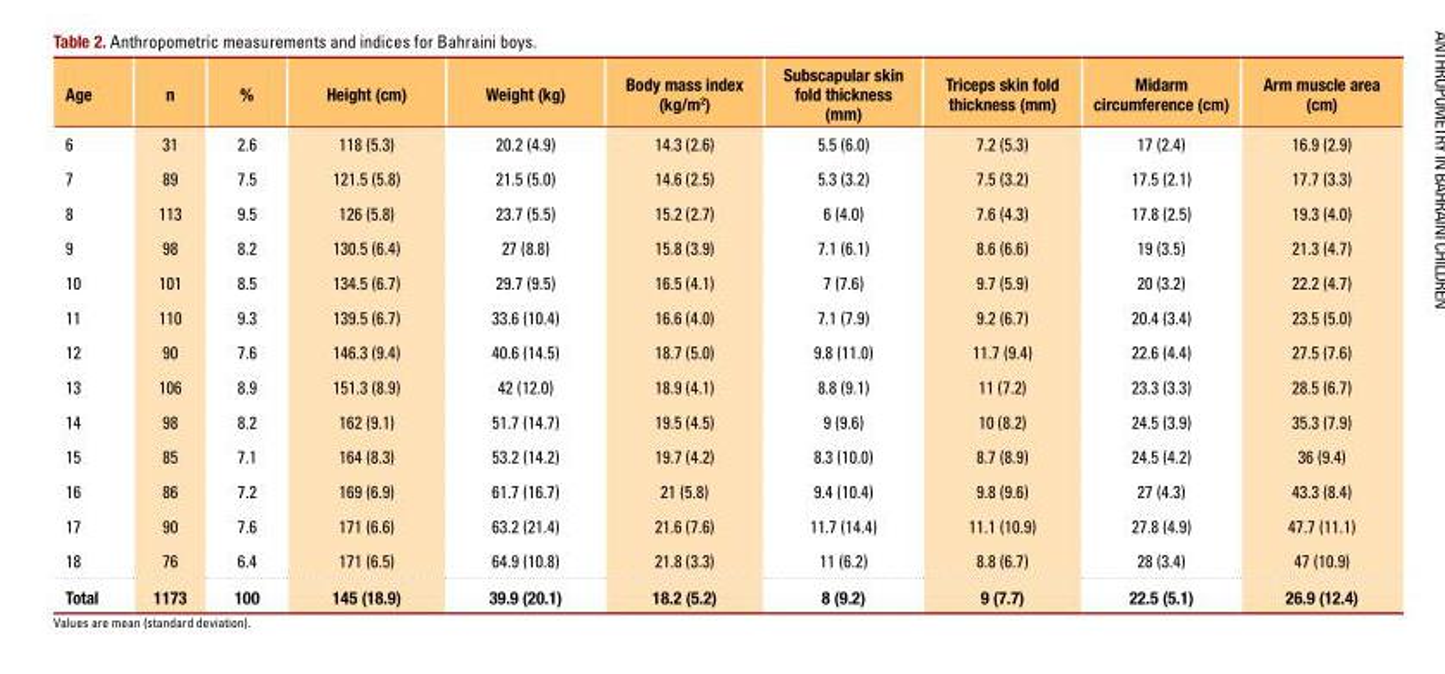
<table><thead><tr><td>Age</td><td>n</td><td>%</td><td>Height (cm)</td><td>Weight (kg)</td><td>Body mass index (kg/m<sup>2</sup>)</td><td>Subscapular skin fold thickness (mm)</td><td>Triceps skin fold thickness (mm)</td><td>Midarm circumference (cm)</td><td>Arm muscle area (cm)</td></tr></thead><tbody><tr><td>6</td><td>31</td><td>2.6</td><td>118 (5.3)</td><td>20.2 (4.9)</td><td>14.3 (2.6)</td><td>5.5 (6.0)</td><td>7.2 (5.3)</td><td>17 (2.4)</td><td>16.9 (2.9)</td></tr><tr><td>7</td><td>89</td><td>7.5</td><td>121.5 (5.8)</td><td>21.5 (5.0)</td><td>14.6 (2.5)</td><td>5.3 (3.2)</td><td>7.5 (3.2)</td><td>17.5 (2.1)</td><td>17.7 (3.3)</td></tr><tr><td>8</td><td>113</td><td>9.5</td><td>126 (5.8)</td><td>23.7 (5.5)</td><td>15.2 (2.7)</td><td>6 (4.0)</td><td>7.6 (4.3)</td><td>17.8 (2.5)</td><td>19.3 (4.0)</td></tr><tr><td>9</td><td>98</td><td>8.2</td><td>130.5 (6.4)</td><td>27 (8.8)</td><td>15.8 (3.9)</td><td>7.1 (6.1)</td><td>8.6 (6.6)</td><td>19 (3.5)</td><td>21.3 (4.7)</td></tr><tr><td>10</td><td>101</td><td>8.5</td><td>134.5 (6.7)</td><td>29.7 (9.5)</td><td>16.5 (4.1)</td><td>7 (7.6)</td><td>9.7 (5.9)</td><td>20 (3.2)</td><td>22.2 (4.7)</td></tr><tr><td>11</td><td>110</td><td>9.3</td><td>139.5 (6.7)</td><td>33.6 (10.4)</td><td>16.6 (4.0)</td><td>7.1 (7.9)</td><td>9.2 (6.7)</td><td>20.4 (3.4)</td><td>23.5 (5.0)</td></tr><tr><td>12</td><td>90</td><td>7.6</td><td>146.3 (9.4)</td><td>40.6 (14.5)</td><td>18.7 (5.0)</td><td>9.8 (11.0)</td><td>11.7 (9.4)</td><td>22.6 (4.4)</td><td>27.5 (7.6)</td></tr><tr><td>13</td><td>106</td><td>8.9</td><td>151.3 (8.9)</td><td>42 (12.0)</td><td>18.9 (4.1)</td><td>8.8 (9.1)</td><td>11 (7.2)</td><td>23.3 (3.3)</td><td>28.5 (6.7)</td></tr><tr><td>14</td><td>98</td><td>8.2</td><td>162 (9.1)</td><td>51.7 (14.7)</td><td>19.5 (4.5)</td><td>9 (9.6)</td><td>10 (8.2)</td><td>24.5 (3.9)</td><td>35.3 (7.9)</td></tr><tr><td>15</td><td>85</td><td>7.1</td><td>164 (8.3)</td><td>53.2 (14.2)</td><td>19.7 (4.2)</td><td>8.3 (10.0)</td><td>8.7 (8.9)</td><td>24.5 (4.2)</td><td>36 (9.4)</td></tr><tr><td>16</td><td>86</td><td>7.2</td><td>169 (6.9)</td><td>61.7 (16.7)</td><td>21 (5.8)</td><td>9.4 (10.4)</td><td>9.8 (9.6)</td><td>27 (4.3)</td><td>43.3 (8.4)</td></tr><tr><td>17</td><td>90</td><td>7.6</td><td>171 (6.6)</td><td>63.2 (21.4)</td><td>21.6 (7.6)</td><td>11.7 (14.4)</td><td>11.1 (10.9)</td><td>27.8 (4.9)</td><td>47.7 (11.1)</td></tr><tr><td>18</td><td>76</td><td>6.4</td><td>171 (6.5)</td><td>64.9 (10.8)</td><td>21.8 (3.3)</td><td>11 (6.2)</td><td>8.8 (6.7)</td><td>28 (3.4)</td><td>47 (10.9)</td></tr><tr><td>Total</td><td>1173</td><td>100</td><td>145 (18.9)</td><td>39.9 (20.1)</td><td>18.2 (5.2)</td><td>8 (9.2)</td><td>9 (7.7)</td><td>22.5 (5.1)</td><td>26.9 (12.4)</td></tr></tbody></table>